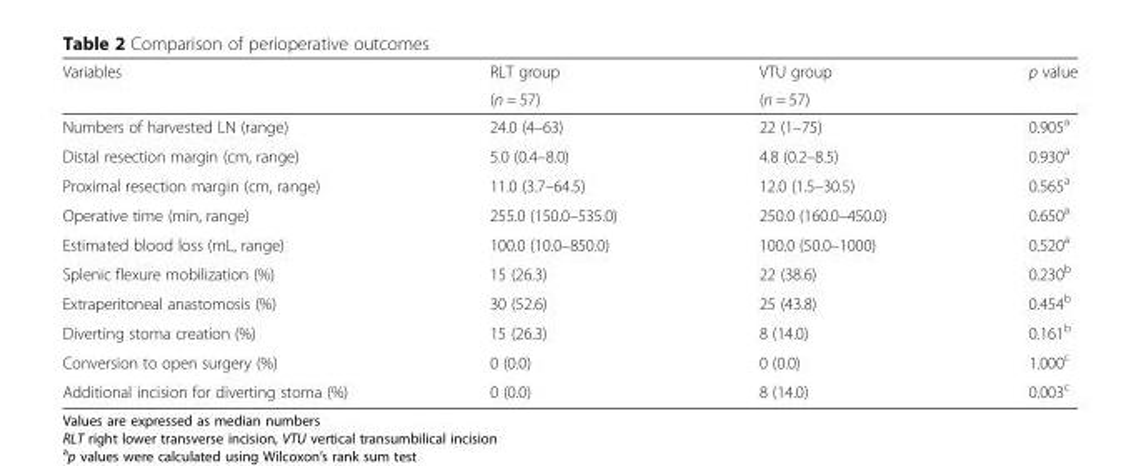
<table><thead><tr><td rowspan="2">Variables</td><td rowspan="2">RLT group (n = 57)</td><td rowspan="2">VTU group (n = 57)</td><td rowspan="2">p value</td></tr><tr></tr></thead><tbody><tr><td>Numbers of harvested LN (range)</td><td>24.0 (4–63)</td><td>22 (1–75)</td><td>0.905<sup>a</sup></td></tr><tr><td>Distal resection margin (cm, range)</td><td>5.0 (0.4–8.0)</td><td>4.8 (0.2–8.5)</td><td>0.930<sup>a</sup></td></tr><tr><td>Proximal resection margin (cm, range)</td><td>11.0 (3.7–64.5)</td><td>12.0 (1.5–30.5)</td><td>0.565<sup>a</sup></td></tr><tr><td>Operative time (min, range)</td><td>255.0 (150.0–535.0)</td><td>250.0 (160.0–450.0)</td><td>0.650<sup>a</sup></td></tr><tr><td>Estimated blood loss (mL, range)</td><td>100.0 (10.0–850.0)</td><td>100.0 (50.0–1000)</td><td>0.520<sup>a</sup></td></tr><tr><td>Splenic flexure mobilization (%)</td><td>15 (26.3)</td><td>22 (38.6)</td><td>0.230<sup>b</sup></td></tr><tr><td>Extraperitoneal anastomosis (%)</td><td>30 (52.6)</td><td>25 (43.8)</td><td>0.454<sup>b</sup></td></tr><tr><td>Diverting stoma creation (%)</td><td>15 (26.3)</td><td>8 (14.0)</td><td>0.161<sup>b</sup></td></tr><tr><td>Conversion to open surgery (%)</td><td>0 (0.0)</td><td>0 (0.0)</td><td>1.000<sup>c</sup></td></tr><tr><td>Additional incision for diverting stoma (%)</td><td>0 (0.0)</td><td>8 (14.0)</td><td>0.003<sup>c</sup></td></tr></tbody></table>